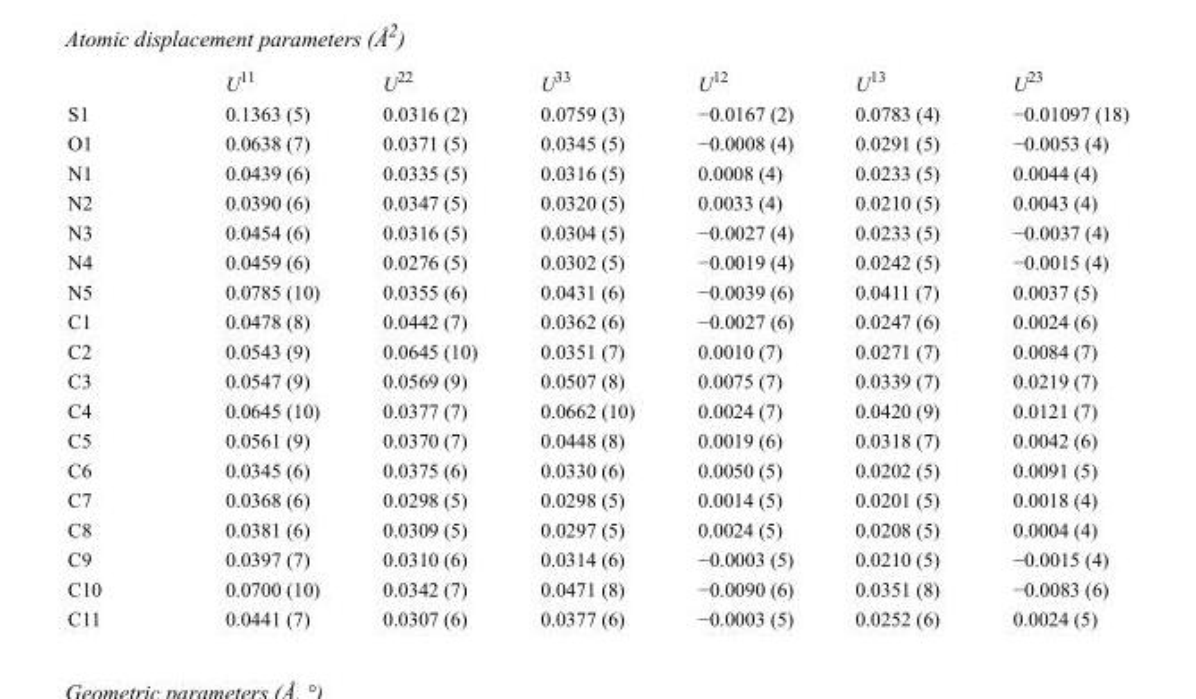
<table><thead><tr><td></td><td>U<sup>11</sup></td><td>U<sup>22</sup></td><td>U<sup>33</sup></td><td>U<sup>12</sup></td><td>U<sup>13</sup></td><td>U<sup>23</sup></td></tr></thead><tbody><tr><td>S1</td><td>0.1363 (5)</td><td>0.0316 (2)</td><td>0.0759 (3)</td><td>−0.0167 (2)</td><td>0.0783 (4)</td><td>−0.01097 (18)</td></tr><tr><td>O1</td><td>0.0638 (7)</td><td>0.0371 (5)</td><td>0.0345 (5)</td><td>−0.0008 (4)</td><td>0.0291 (5)</td><td>−0.0053 (4)</td></tr><tr><td>N1</td><td>0.0439 (6)</td><td>0.0335 (5)</td><td>0.0316 (5)</td><td>0.0008 (4)</td><td>0.0233 (5)</td><td>0.0044 (4)</td></tr><tr><td>N2</td><td>0.0390 (6)</td><td>0.0347 (5)</td><td>0.0320 (5)</td><td>0.0033 (4)</td><td>0.0210 (5)</td><td>0.0043 (4)</td></tr><tr><td>N3</td><td>0.0454 (6)</td><td>0.0316 (5)</td><td>0.0304 (5)</td><td>−0.0027 (4)</td><td>0.0233 (5)</td><td>−0.0037 (4)</td></tr><tr><td>N4</td><td>0.0459 (6)</td><td>0.0276 (5)</td><td>0.0302 (5)</td><td>−0.0019 (4)</td><td>0.0242 (5)</td><td>−0.0015 (4)</td></tr><tr><td>N5</td><td>0.0785 (10)</td><td>0.0355 (6)</td><td>0.0431 (6)</td><td>−0.0039 (6)</td><td>0.0411 (7)</td><td>0.0037 (5)</td></tr><tr><td>C1</td><td>0.0478 (8)</td><td>0.0442 (7)</td><td>0.0362 (6)</td><td>−0.0027 (6)</td><td>0.0247 (6)</td><td>0.0024 (6)</td></tr><tr><td>C2</td><td>0.0543 (9)</td><td>0.0645 (10)</td><td>0.0351 (7)</td><td>0.0010 (7)</td><td>0.0271 (7)</td><td>0.0084 (7)</td></tr><tr><td>C3</td><td>0.0547 (9)</td><td>0.0569 (9)</td><td>0.0507 (8)</td><td>0.0075 (7)</td><td>0.0339 (7)</td><td>0.0219 (7)</td></tr><tr><td>C4</td><td>0.0645 (10)</td><td>0.0377 (7)</td><td>0.0662 (10)</td><td>0.0024 (7)</td><td>0.0420 (9)</td><td>0.0121 (7)</td></tr><tr><td>C5</td><td>0.0561 (9)</td><td>0.0370 (7)</td><td>0.0448 (8)</td><td>0.0019 (6)</td><td>0.0318 (7)</td><td>0.0042 (6)</td></tr><tr><td>C6</td><td>0.0345 (6)</td><td>0.0375 (6)</td><td>0.0330 (6)</td><td>0.0050 (5)</td><td>0.0202 (5)</td><td>0.0091 (5)</td></tr><tr><td>C7</td><td>0.0368 (6)</td><td>0.0298 (5)</td><td>0.0298 (5)</td><td>0.0014 (5)</td><td>0.0201 (5)</td><td>0.0018 (4)</td></tr><tr><td>C8</td><td>0.0381 (6)</td><td>0.0309 (5)</td><td>0.0297 (5)</td><td>0.0024 (5)</td><td>0.0208 (5)</td><td>0.0004 (4)</td></tr><tr><td>C9</td><td>0.0397 (7)</td><td>0.0310 (6)</td><td>0.0314 (6)</td><td>−0.0003 (5)</td><td>0.0210 (5)</td><td>−0.0015 (4)</td></tr><tr><td>C10</td><td>0.0700 (10)</td><td>0.0342 (7)</td><td>0.0471 (8)</td><td>−0.0090 (6)</td><td>0.0351 (8)</td><td>−0.0083 (6)</td></tr><tr><td>C11</td><td>0.0441 (7)</td><td>0.0307 (6)</td><td>0.0377 (6)</td><td>−0.0003 (5)</td><td>0.0252 (6)</td><td>0.0024 (5)</td></tr></tbody></table>